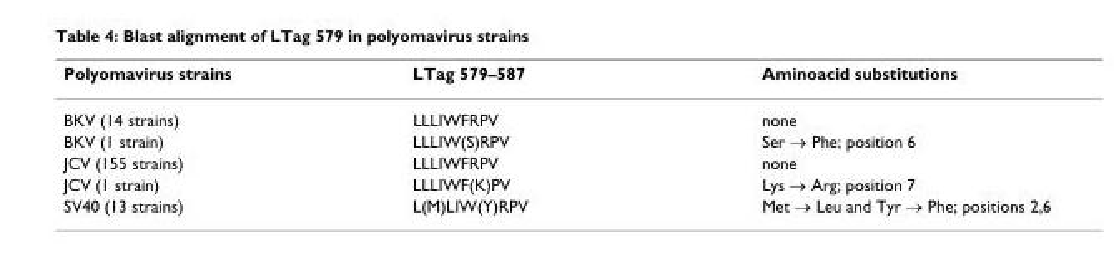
<table><thead><tr><td>Polyomavirus strains</td><td>LTag 579–587</td><td>Aminoacid substitutions</td></tr></thead><tbody><tr><td>BKV (14 strains)</td><td>LLLIWFRPV</td><td>none</td></tr><tr><td>BKV (1 strain)</td><td>LLLIW(S)RPV</td><td>Ser → Phe; position 6</td></tr><tr><td>JCV (155 strains)</td><td>LLLIWFRPV</td><td>none</td></tr><tr><td>JCV (1 strain)</td><td>LLLIWF(K)PV</td><td>Lys → Arg; position 7</td></tr><tr><td>SV40 (13 strains)</td><td>L(M)LIW(Y)RPV</td><td>Met → Leu and Tyr → Phe; positions 2,6</td></tr></tbody></table>